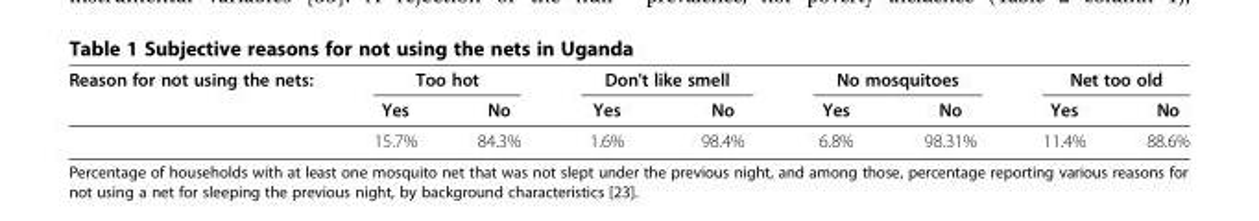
<table><thead><tr><td rowspan="2">Reason for not using the nets:</td><td colspan="2">Too hot</td><td colspan="2">Don&#x27;t like smell</td><td colspan="2">No mosquitoes</td><td colspan="2">Net too old</td></tr><tr><td>Yes</td><td>No</td><td>Yes</td><td>No</td><td>Yes</td><td>No</td><td>Yes</td><td>No</td></tr></thead><tbody><tr><td></td><td>15.7%</td><td>84.3%</td><td>1.6%</td><td>98.4%</td><td>6.8%</td><td>98.31%</td><td>11.4%</td><td>88.6%</td></tr></tbody></table>